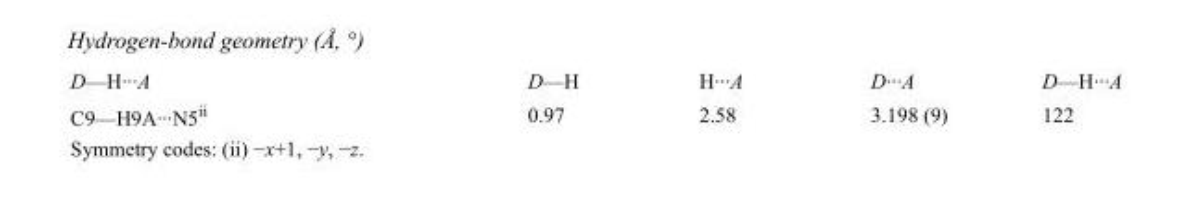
<table><tbody><tr><td>D—H···A</td><td>D—H</td><td>H···A</td><td>D···A</td><td>D—H···A</td></tr><tr><td>C9—H9A···N5<sup>ii</sup></td><td>0.97</td><td>2.58</td><td>3.198 (9)</td><td>122</td></tr></tbody></table>